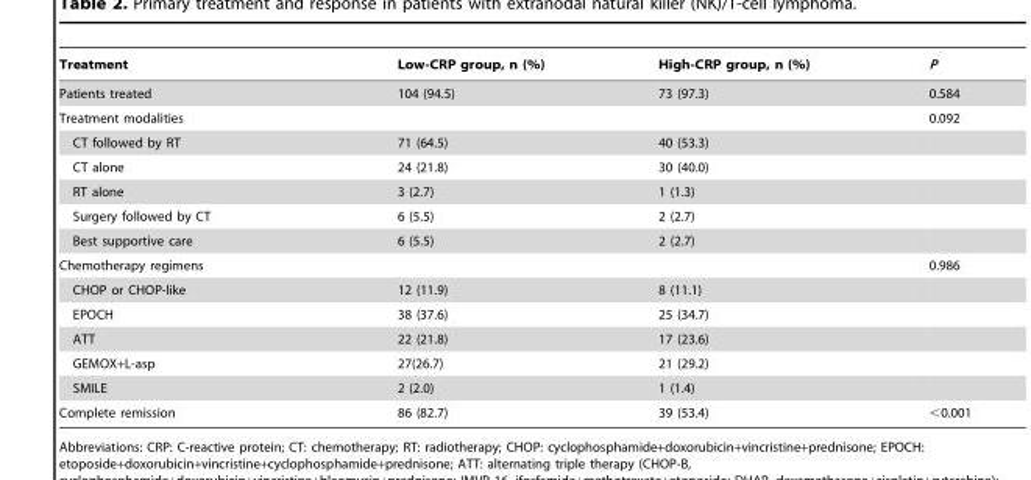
<table><thead><tr><td>Treatment</td><td>Low-CRP group, n (%)</td><td>High-CRP group, n (%)</td><td>P</td></tr></thead><tbody><tr><td>Patients treated</td><td>104 (94.5)</td><td>73 (97.3)</td><td>0.584</td></tr><tr><td>Treatment modalities</td><td></td><td></td><td>0.092</td></tr><tr><td>CT followed by RT</td><td>71 (64.5)</td><td>40 (53.3)</td><td></td></tr><tr><td>CT alone</td><td>24 (21.8)</td><td>30 (40.0)</td><td></td></tr><tr><td>RT alone</td><td>3 (2.7)</td><td>1 (1.3)</td><td></td></tr><tr><td>Surgery followed by CT</td><td>6 (5.5)</td><td>2 (2.7)</td><td></td></tr><tr><td>Best supportive care</td><td>6 (5.5)</td><td>2 (2.7)</td><td></td></tr><tr><td>Chemotherapy regimens</td><td></td><td></td><td>0.986</td></tr><tr><td>CHOP or CHOP-like</td><td>12 (11.9)</td><td>8 (11.1)</td><td></td></tr><tr><td>EPOCH</td><td>38 (37.6)</td><td>25 (34.7)</td><td></td></tr><tr><td>ATT</td><td>22 (21.8)</td><td>17 (23.6)</td><td></td></tr><tr><td>GEMOX+L-asp</td><td>27(26.7)</td><td>21 (29.2)</td><td></td></tr><tr><td>SMILE</td><td>2 (2.0)</td><td>1 (1.4)</td><td></td></tr><tr><td>Complete remission</td><td>86 (82.7)</td><td>39 (53.4)</td><td>&lt;0.001</td></tr></tbody></table>